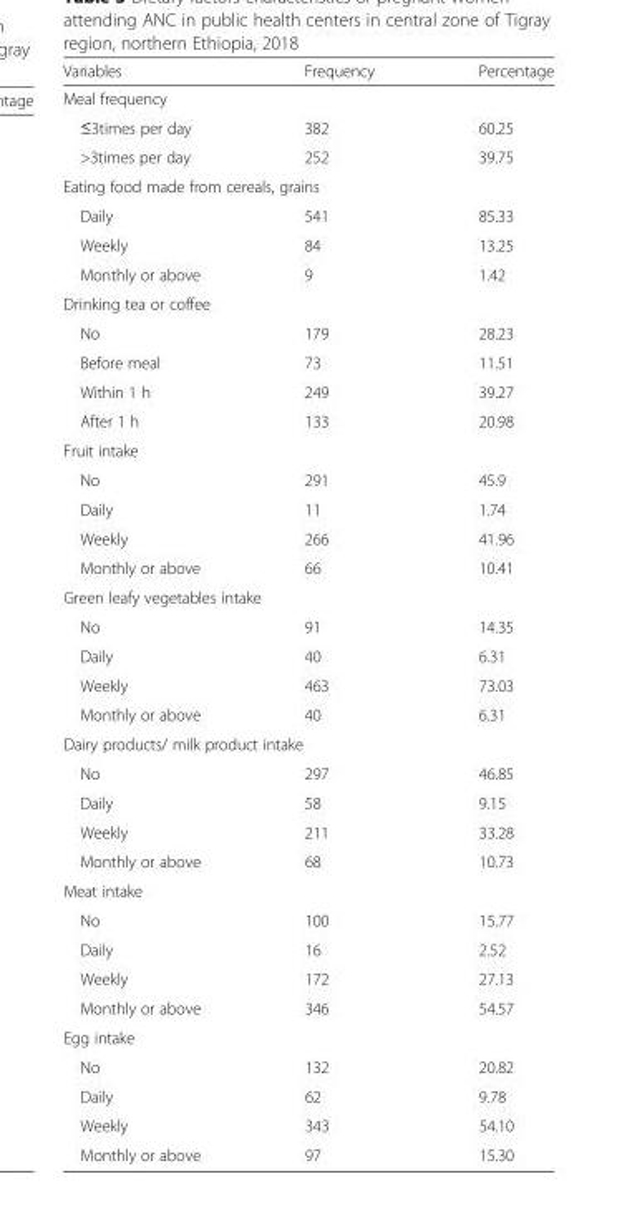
<table><thead><tr><td>Variables</td><td>Frequency</td><td>Percentage</td></tr></thead><tbody><tr><td colspan="3">Meal frequency</td></tr><tr><td>≤3times per day</td><td>382</td><td>60.25</td></tr><tr><td>&gt;3times per day</td><td>252</td><td>39.75</td></tr><tr><td colspan="3">Eating food made from cereals, grains</td></tr><tr><td>Daily</td><td>541</td><td>85.33</td></tr><tr><td>Weekly</td><td>84</td><td>13.25</td></tr><tr><td>Monthly or above</td><td>9</td><td>1.42</td></tr><tr><td colspan="3">Drinking tea or coffee</td></tr><tr><td>No</td><td>179</td><td>28.23</td></tr><tr><td>Before meal</td><td>73</td><td>11.51</td></tr><tr><td>Within 1 h</td><td>249</td><td>39.27</td></tr><tr><td>After 1 h</td><td>133</td><td>20.98</td></tr><tr><td colspan="3">Fruit intake</td></tr><tr><td>No</td><td>291</td><td>45.9</td></tr><tr><td>Daily</td><td>11</td><td>1.74</td></tr><tr><td>Weekly</td><td>266</td><td>41.96</td></tr><tr><td>Monthly or above</td><td>66</td><td>10.41</td></tr><tr><td colspan="3">Green leafy vegetables intake</td></tr><tr><td>No</td><td>91</td><td>14.35</td></tr><tr><td>Daily</td><td>40</td><td>6.31</td></tr><tr><td>Weekly</td><td>463</td><td>73.03</td></tr><tr><td>Monthly or above</td><td>40</td><td>6.31</td></tr><tr><td colspan="3">Dairy products/ milk product intake</td></tr><tr><td>No</td><td>297</td><td>46.85</td></tr><tr><td>Daily</td><td>58</td><td>9.15</td></tr><tr><td>Weekly</td><td>211</td><td>33.28</td></tr><tr><td>Monthly or above</td><td>68</td><td>10.73</td></tr><tr><td colspan="3">Meat intake</td></tr><tr><td>No</td><td>100</td><td>15.77</td></tr><tr><td>Daily</td><td>16</td><td>2.52</td></tr><tr><td>Weekly</td><td>172</td><td>27.13</td></tr><tr><td>Monthly or above</td><td>346</td><td>54.57</td></tr><tr><td colspan="3">Egg intake</td></tr><tr><td>No</td><td>132</td><td>20.82</td></tr><tr><td>Daily</td><td>62</td><td>9.78</td></tr><tr><td>Weekly</td><td>343</td><td>54.10</td></tr><tr><td>Monthly or above</td><td>97</td><td>15.30</td></tr></tbody></table>